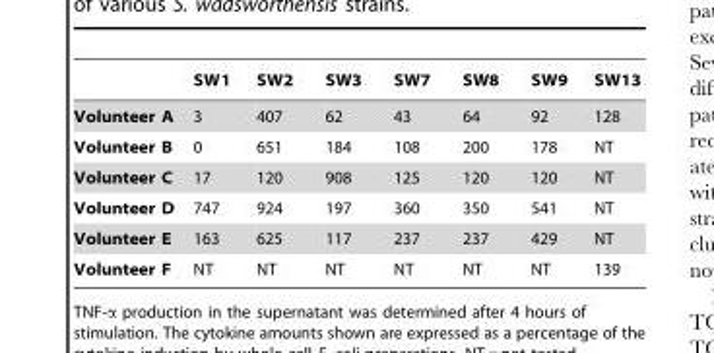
<table><thead><tr><td></td><td>SW1</td><td>SW2</td><td>SW3</td><td>SW7</td><td>SW8</td><td>SW9</td><td>SW13</td></tr></thead><tbody><tr><td>Volunteer A</td><td>3</td><td>407</td><td>62</td><td>43</td><td>64</td><td>92</td><td>128</td></tr><tr><td>Volunteer B</td><td>0</td><td>651</td><td>184</td><td>108</td><td>200</td><td>178</td><td>NT</td></tr><tr><td>Volunteer C</td><td>17</td><td>120</td><td>908</td><td>125</td><td>120</td><td>120</td><td>NT</td></tr><tr><td>Volunteer D</td><td>747</td><td>924</td><td>197</td><td>360</td><td>350</td><td>541</td><td>NT</td></tr><tr><td>Volunteer E</td><td>163</td><td>625</td><td>117</td><td>237</td><td>237</td><td>429</td><td>NT</td></tr><tr><td>Volunteer F</td><td>NT</td><td>NT</td><td>NT</td><td>NT</td><td>NT</td><td>NT</td><td>139</td></tr></tbody></table>